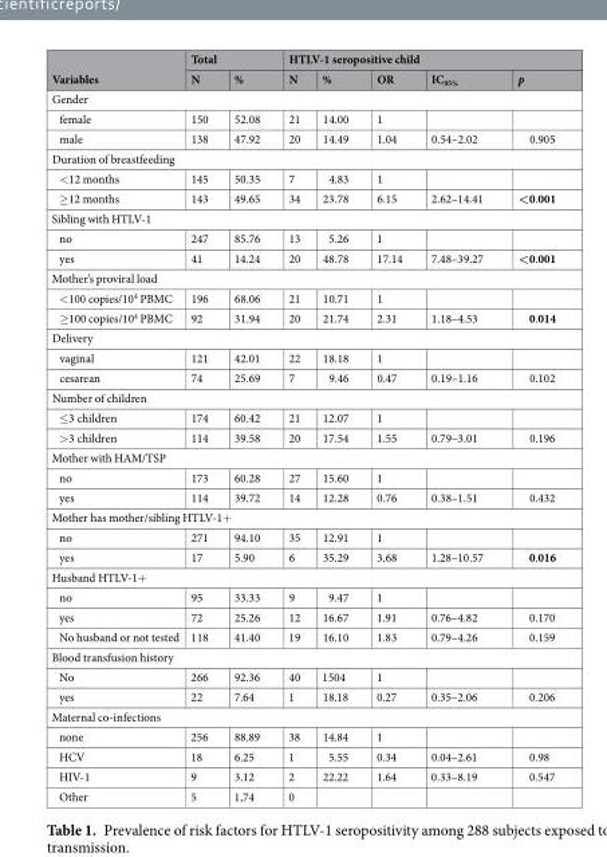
<table><thead><tr><td rowspan="2">Variables</td><td colspan="2">Total</td><td colspan="5">HTLV-1 seropositive child</td></tr><tr><td>N</td><td>%</td><td>N</td><td>%</td><td>OR</td><td>IC<sub>95%</sub></td><td>p</td></tr></thead><tbody><tr><td colspan="8">Gender</td></tr><tr><td>female</td><td>150</td><td>52.08</td><td>21</td><td>14.00</td><td>1</td><td></td><td></td></tr><tr><td>male</td><td>138</td><td>47.92</td><td>20</td><td>14.49</td><td>1.04</td><td>0.54–2.02</td><td>0.905</td></tr><tr><td colspan="8">Duration of breastfeeding</td></tr><tr><td>&lt;12 months</td><td>145</td><td>50.35</td><td>7</td><td>4.83</td><td>1</td><td></td><td></td></tr><tr><td>≥12 months</td><td>143</td><td>49.65</td><td>34</td><td>23.78</td><td>6.15</td><td>2.62–14.41</td><td>&lt;0.001</td></tr><tr><td colspan="8">Sibling with HTLV-1</td></tr><tr><td>no</td><td>247</td><td>85.76</td><td>13</td><td>5.26</td><td>1</td><td></td><td></td></tr><tr><td>yes</td><td>41</td><td>14.24</td><td>20</td><td>48.78</td><td>17.14</td><td>7.48–39.27</td><td>&lt;0.001</td></tr><tr><td colspan="8">Mother’s proviral load</td></tr><tr><td>&lt;100 copies/10<sup>4</sup> PBMC</td><td>196</td><td>68.06</td><td>21</td><td>10.71</td><td>1</td><td></td><td></td></tr><tr><td>≥100 copies/10<sup>4</sup> PBMC</td><td>92</td><td>31.94</td><td>20</td><td>21.74</td><td>2.31</td><td>1.18–4.53</td><td>0.014</td></tr><tr><td colspan="8">Delivery</td></tr><tr><td>vaginal</td><td>121</td><td>42.01</td><td>22</td><td>18.18</td><td>1</td><td></td><td></td></tr><tr><td>cesarean</td><td>74</td><td>25.69</td><td>7</td><td>9.46</td><td>0.47</td><td>0.19–1.16</td><td>0.102</td></tr><tr><td colspan="8">Number of children</td></tr><tr><td>≤3 children</td><td>174</td><td>60.42</td><td>21</td><td>12.07</td><td>1</td><td></td><td></td></tr><tr><td>&gt;3 children</td><td>114</td><td>39.58</td><td>20</td><td>17.54</td><td>1.55</td><td>0.79–3.01</td><td>0.196</td></tr><tr><td colspan="8">Mother with HAM/TSP</td></tr><tr><td>no</td><td>173</td><td>60.28</td><td>27</td><td>15.60</td><td>1</td><td></td><td></td></tr><tr><td>yes</td><td>114</td><td>39.72</td><td>14</td><td>12.28</td><td>0.76</td><td>0.38–1.51</td><td>0.432</td></tr><tr><td colspan="8">Mother has mother/sibling HTLV-1+</td></tr><tr><td>no</td><td>271</td><td>94.10</td><td>35</td><td>12.91</td><td>1</td><td></td><td></td></tr><tr><td>yes</td><td>17</td><td>5.90</td><td>6</td><td>35.29</td><td>3.68</td><td>1.28–10.57</td><td>0.016</td></tr><tr><td colspan="8">Husband HTLV-1+</td></tr><tr><td>no</td><td>95</td><td>33.33</td><td>9</td><td>9.47</td><td>1</td><td></td><td></td></tr><tr><td>yes</td><td>72</td><td>25.26</td><td>12</td><td>16.67</td><td>1.91</td><td>0.76–4.82</td><td>0.170</td></tr><tr><td>No husband or not tested</td><td>118</td><td>41.40</td><td>19</td><td>16.10</td><td>1.83</td><td>0.79–4.26</td><td>0.159</td></tr><tr><td colspan="8">Blood transfusion history</td></tr><tr><td>No</td><td>266</td><td>92.36</td><td>40</td><td>1504</td><td>1</td><td></td><td></td></tr><tr><td>yes</td><td>22</td><td>7.64</td><td>1</td><td>18.18</td><td>0.27</td><td>0.35–2.06</td><td>0.206</td></tr><tr><td colspan="8">Maternal co-infections</td></tr><tr><td>none</td><td>256</td><td>88.89</td><td>38</td><td>14.84</td><td>1</td><td></td><td></td></tr><tr><td>HCV</td><td>18</td><td>6.25</td><td>1</td><td>5.55</td><td>0.34</td><td>0.04–2.61</td><td>0.98</td></tr><tr><td>HIV-1</td><td>9</td><td>3.12</td><td>2</td><td>22.22</td><td>1.64</td><td>0.33–8.19</td><td>0.547</td></tr><tr><td>Other</td><td>5</td><td>1,74</td><td>0</td><td></td><td></td><td></td><td></td></tr></tbody></table>